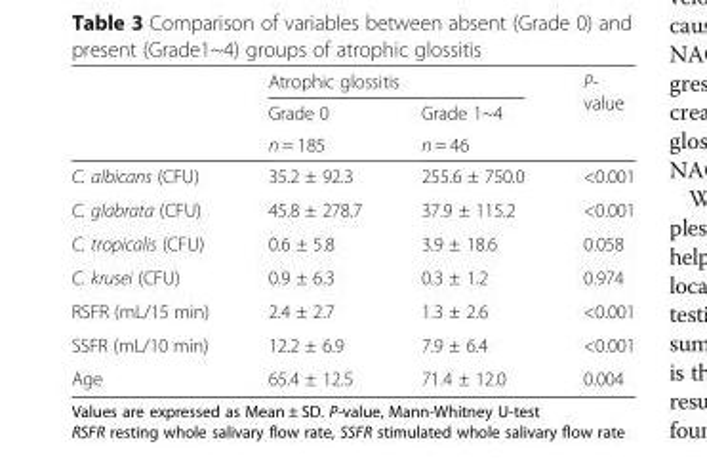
<table><thead><tr><td rowspan="3"></td><td colspan="2">Atrophic glossitis</td><td rowspan="3">P- value</td></tr><tr><td rowspan="2">Grade 0 n = 185</td><td rowspan="2">Grade 1~4 n = 46</td></tr><tr></tr></thead><tbody><tr><td>C. albicans (CFU)</td><td>35.2 ± 92.3</td><td>255.6 ± 750.0</td><td>&lt;0.001</td></tr><tr><td>C. glabrata (CFU)</td><td>45.8 ± 278.7</td><td>37.9 ± 115.2</td><td>&lt;0.001</td></tr><tr><td>C. tropicalis (CFU)</td><td>0.6 ± 5.8</td><td>3.9 ± 18.6</td><td>0.058</td></tr><tr><td>C. krusei (CFU)</td><td>0.9 ± 6.3</td><td>0.3 ± 1.2</td><td>0.974</td></tr><tr><td>RSFR (mL/15 min)</td><td>2.4 ± 2.7</td><td>1.3 ± 2.6</td><td>&lt;0.001</td></tr><tr><td>SSFR (mL/10 min)</td><td>12.2 ± 6.9</td><td>7.9 ± 6.4</td><td>&lt;0.001</td></tr><tr><td>Age</td><td>65.4 ± 12.5</td><td>71.4 ± 12.0</td><td>0.004</td></tr></tbody></table>